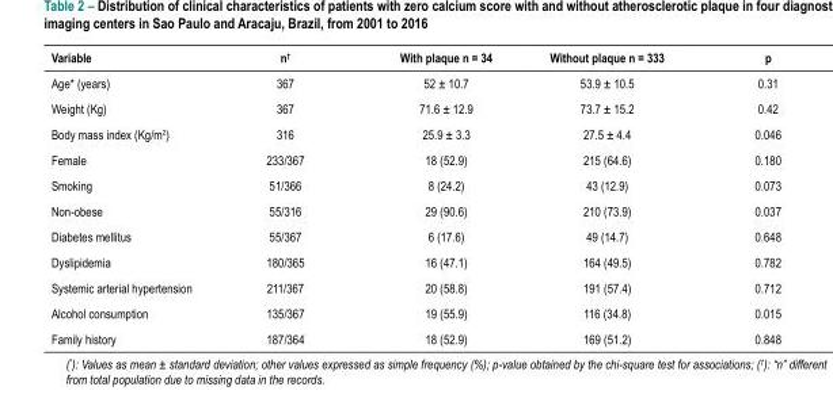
<table><thead><tr><td>Variable</td><td>n<sup>†</sup></td><td>With plaque n = 34</td><td>Without plaque n = 333</td><td>p</td></tr></thead><tbody><tr><td>Age* (years)</td><td>367</td><td>52 ± 10.7</td><td>53.9 ± 10.5</td><td>0.31</td></tr><tr><td>Weight (Kg)</td><td>367</td><td>71.6 ± 12.9</td><td>73.7 ± 15.2</td><td>0.42</td></tr><tr><td>Body mass index (Kg/m<sup>2</sup>)</td><td>316</td><td>25.9 ± 3.3</td><td>27.5 ± 4.4</td><td>0.046</td></tr><tr><td>Female</td><td>233/367</td><td>18 (52.9)</td><td>215 (64.6)</td><td>0.180</td></tr><tr><td>Smoking</td><td>51/366</td><td>8 (24.2)</td><td>43 (12.9)</td><td>0.073</td></tr><tr><td>Non-obese</td><td>55/316</td><td>29 (90.6)</td><td>210 (73.9)</td><td>0.037</td></tr><tr><td>Diabetes mellitus</td><td>55/367</td><td>6 (17.6)</td><td>49 (14.7)</td><td>0.648</td></tr><tr><td>Dyslipidemia</td><td>180/365</td><td>16 (47.1)</td><td>164 (49.5)</td><td>0.782</td></tr><tr><td>Systemic arterial hypertension</td><td>211/367</td><td>20 (58.8)</td><td>191 (57.4)</td><td>0.712</td></tr><tr><td>Alcohol consumption</td><td>135/367</td><td>19 (55.9)</td><td>116 (34.8)</td><td>0.015</td></tr><tr><td>Family history</td><td>187/364</td><td>18 (52.9)</td><td>169 (51.2)</td><td>0.848</td></tr></tbody></table>